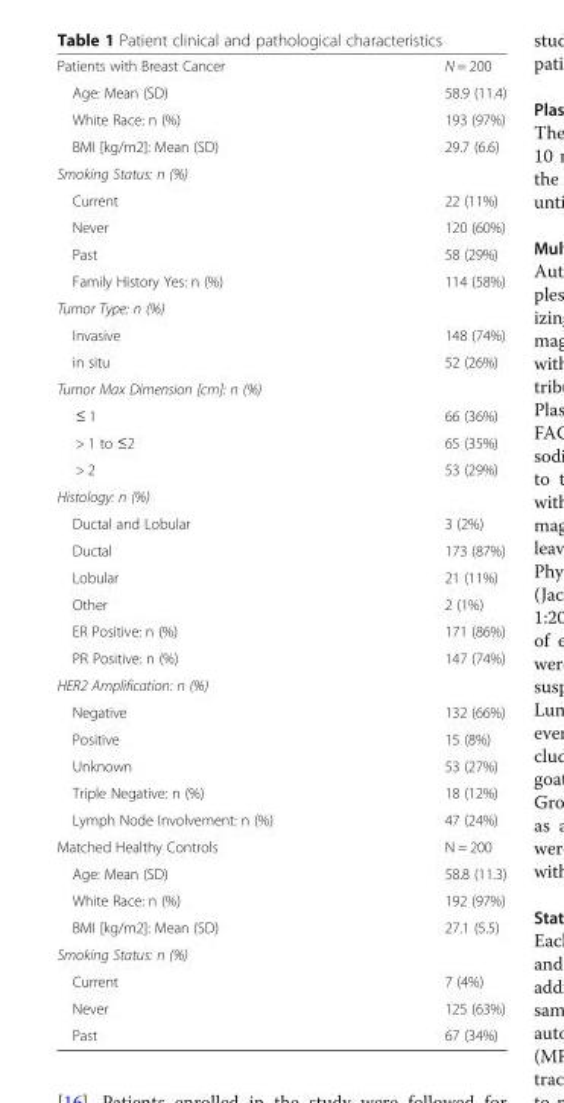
<table><tbody><tr><td>Patients with Breast Cancer</td><td>N = 200</td></tr><tr><td>Age: Mean (SD)</td><td>58.9 (11.4)</td></tr><tr><td>White Race: n (%)</td><td>193 (97%)</td></tr><tr><td>BMI [kg/m2]: Mean (SD)</td><td>29.7 (6.6)</td></tr><tr><td colspan="2">Smoking Status: n (%)</td></tr><tr><td>Current</td><td>22 (11%)</td></tr><tr><td>Never</td><td>120 (60%)</td></tr><tr><td>Past</td><td>58 (29%)</td></tr><tr><td>Family History Yes: n (%)</td><td>114 (58%)</td></tr><tr><td colspan="2">Tumor Type: n (%)</td></tr><tr><td>Invasive</td><td>148 (74%)</td></tr><tr><td>in situ</td><td>52 (26%)</td></tr><tr><td colspan="2">Tumor Max Dimension [cm]: n (%)</td></tr><tr><td>≤ 1</td><td>66 (36%)</td></tr><tr><td>&gt; 1 to ≤2</td><td>65 (35%)</td></tr><tr><td>&gt; 2</td><td>53 (29%)</td></tr><tr><td colspan="2">Histology: n (%)</td></tr><tr><td>Ductal and Lobular</td><td>3 (2%)</td></tr><tr><td>Ductal</td><td>173 (87%)</td></tr><tr><td>Lobular</td><td>21 (11%)</td></tr><tr><td>Other</td><td>2 (1%)</td></tr><tr><td>ER Positive: n (%)</td><td>171 (86%)</td></tr><tr><td>PR Positive: n (%)</td><td>147 (74%)</td></tr><tr><td colspan="2">HER2 Amplification: n (%)</td></tr><tr><td>Negative</td><td>132 (66%)</td></tr><tr><td>Positive</td><td>15 (8%)</td></tr><tr><td>Unknown</td><td>53 (27%)</td></tr><tr><td>Triple Negative: n (%)</td><td>18 (12%)</td></tr><tr><td>Lymph Node Involvement: n (%)</td><td>47 (24%)</td></tr><tr><td>Matched Healthy Controls</td><td>N = 200</td></tr><tr><td>Age: Mean (SD)</td><td>58.8 (11.3)</td></tr><tr><td>White Race: n (%)</td><td>192 (97%)</td></tr><tr><td>BMI [kg/m2]: Mean (SD)</td><td>27.1 (5.5)</td></tr><tr><td colspan="2">Smoking Status: n (%)</td></tr><tr><td>Current</td><td>7 (4%)</td></tr><tr><td>Never</td><td>125 (63%)</td></tr><tr><td>Past</td><td>67 (34%)</td></tr></tbody></table>